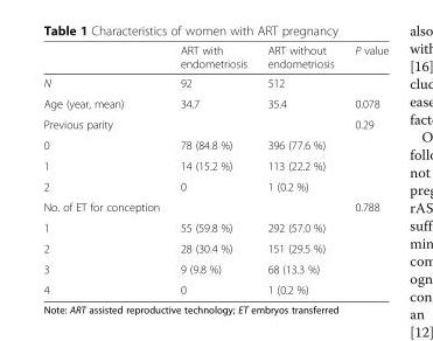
<table><thead><tr><td></td><td>ART with endometriosis</td><td>ART without endometriosis</td><td>P value</td></tr></thead><tbody><tr><td>N</td><td>92</td><td>512</td><td></td></tr><tr><td>Age (year, mean)</td><td>34.7</td><td>35.4</td><td>0.078</td></tr><tr><td>Previous parity</td><td></td><td></td><td>0.29</td></tr><tr><td>0</td><td>78 (84.8 %)</td><td>396 (77.6 %)</td><td></td></tr><tr><td>1</td><td>14 (15.2 %)</td><td>113 (22.2 %)</td><td></td></tr><tr><td>2</td><td>0</td><td>1 (0.2 %)</td><td></td></tr><tr><td>No. of ET for conception</td><td></td><td></td><td>0.788</td></tr><tr><td>1</td><td>55 (59.8 %)</td><td>292 (57.0 %)</td><td></td></tr><tr><td>2</td><td>28 (30.4 %)</td><td>151 (29.5 %)</td><td></td></tr><tr><td>3</td><td>9 (9.8 %)</td><td>68 (13.3 %)</td><td></td></tr><tr><td>4</td><td>0</td><td>1 (0.2 %)</td><td></td></tr></tbody></table>